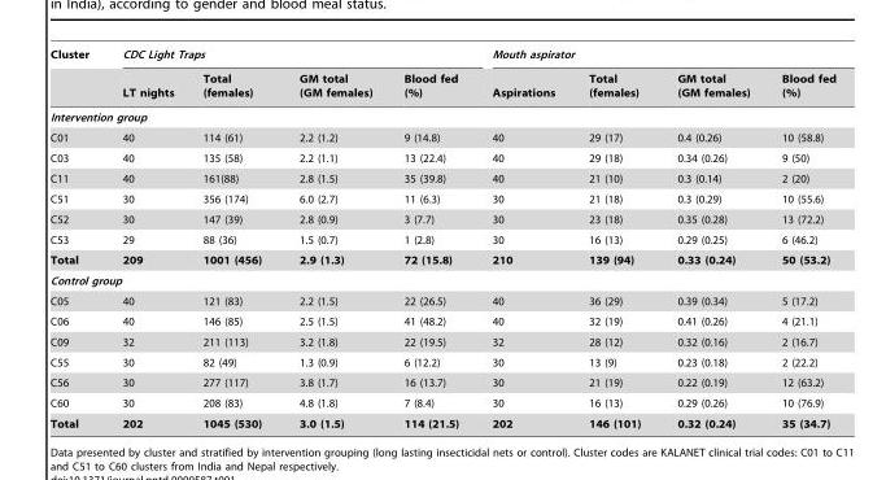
<table><thead><tr><td rowspan="2">Cluster</td><td colspan="4">CDC Light Traps</td><td colspan="4">Mouth aspirator</td></tr><tr><td>LT nights</td><td>Total (females)</td><td>GM total (GM females)</td><td>Blood fed (%)</td><td>Aspirations</td><td>Total (females)</td><td>GM total (GM females)</td><td>Blood fed (%)</td></tr></thead><tbody><tr><td colspan="9">Intervention group</td></tr><tr><td>C01</td><td>40</td><td>114 (61)</td><td>2.2 (1.2)</td><td>9 (14.8)</td><td>40</td><td>29 (17)</td><td>0.4 (0.26)</td><td>10 (58.8)</td></tr><tr><td>C03</td><td>40</td><td>135 (58)</td><td>2.2 (1.1)</td><td>13 (22.4)</td><td>40</td><td>29 (18)</td><td>0.34 (0.26)</td><td>9 (50)</td></tr><tr><td>C11</td><td>40</td><td>161(88)</td><td>2.8 (1.5)</td><td>35 (39.8)</td><td>40</td><td>21 (10)</td><td>0.3 (0.14)</td><td>2 (20)</td></tr><tr><td>C51</td><td>30</td><td>356 (174)</td><td>6.0 (2.7)</td><td>11 (6.3)</td><td>30</td><td>21 (18)</td><td>0.3 (0.29)</td><td>10 (55.6)</td></tr><tr><td>C52</td><td>30</td><td>147 (39)</td><td>2.8 (0.9)</td><td>3 (7.7)</td><td>30</td><td>23 (18)</td><td>0.35 (0.28)</td><td>13 (72.2)</td></tr><tr><td>C53</td><td>29</td><td>88 (36)</td><td>1.5 (0.7)</td><td>1 (2.8)</td><td>30</td><td>16 (13)</td><td>0.29 (0.25)</td><td>6 (46.2)</td></tr><tr><td>Total</td><td>209</td><td>1001 (456)</td><td>2.9 (1.3)</td><td>72 (15.8)</td><td>210</td><td>139 (94)</td><td>0.33 (0.24)</td><td>50 (53.2)</td></tr><tr><td colspan="9">Control group</td></tr><tr><td>C05</td><td>40</td><td>121 (83)</td><td>2.2 (1.5)</td><td>22 (26.5)</td><td>40</td><td>36 (29)</td><td>0.39 (0.34)</td><td>5 (17.2)</td></tr><tr><td>C06</td><td>40</td><td>146 (85)</td><td>2.5 (1.5)</td><td>41 (48.2)</td><td>40</td><td>32 (19)</td><td>0.41 (0.26)</td><td>4 (21.1)</td></tr><tr><td>C09</td><td>32</td><td>211 (113)</td><td>3.2 (1.8)</td><td>22 (19.5)</td><td>32</td><td>28 (12)</td><td>0.32 (0.16)</td><td>2 (16.7)</td></tr><tr><td>C55</td><td>30</td><td>82 (49)</td><td>1.3 (0.9)</td><td>6 (12.2)</td><td>30</td><td>13 (9)</td><td>0.23 (0.18)</td><td>2 (22.2)</td></tr><tr><td>C56</td><td>30</td><td>277 (117)</td><td>3.8 (1.7)</td><td>16 (13.7)</td><td>30</td><td>21 (19)</td><td>0.22 (0.19)</td><td>12 (63.2)</td></tr><tr><td>C60</td><td>30</td><td>208 (83)</td><td>4.8 (1.8)</td><td>7 (8.4)</td><td>30</td><td>16 (13)</td><td>0.29 (0.26)</td><td>10 (76.9)</td></tr><tr><td>Total</td><td>202</td><td>1045 (530)</td><td>3.0 (1.5)</td><td>114 (21.5)</td><td>202</td><td>146 (101)</td><td>0.32 (0.24)</td><td>35 (34.7)</td></tr></tbody></table>